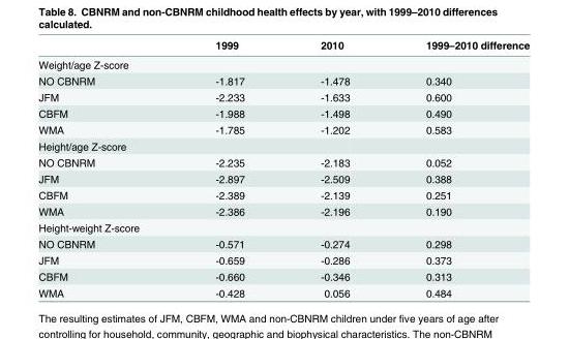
<table><thead><tr><td></td><td>1999</td><td>2010</td><td>1999–2010 difference</td></tr></thead><tbody><tr><td colspan="4">Weight/age Z-score</td></tr><tr><td>NO CBNRM</td><td>-1.817</td><td>-1.478</td><td>0.340</td></tr><tr><td>JFM</td><td>-2.233</td><td>-1.633</td><td>0.600</td></tr><tr><td>CBFM</td><td>-1.988</td><td>-1.498</td><td>0.490</td></tr><tr><td>WMA</td><td>-1.785</td><td>-1.202</td><td>0.583</td></tr><tr><td colspan="4">Height/age Z-score</td></tr><tr><td>NO CBNRM</td><td>-2.235</td><td>-2.183</td><td>0.052</td></tr><tr><td>JFM</td><td>-2.897</td><td>-2.509</td><td>0.388</td></tr><tr><td>CBFM</td><td>-2.389</td><td>-2.139</td><td>0.251</td></tr><tr><td>WMA</td><td>-2.386</td><td>-2.196</td><td>0.190</td></tr><tr><td colspan="4">Height-weight Z-score</td></tr><tr><td>NO CBNRM</td><td>-0.571</td><td>-0.274</td><td>0.298</td></tr><tr><td>JFM</td><td>-0.659</td><td>-0.286</td><td>0.373</td></tr><tr><td>CBFM</td><td>-0.660</td><td>-0.346</td><td>0.313</td></tr><tr><td>WMA</td><td>-0.428</td><td>0.056</td><td>0.484</td></tr></tbody></table>